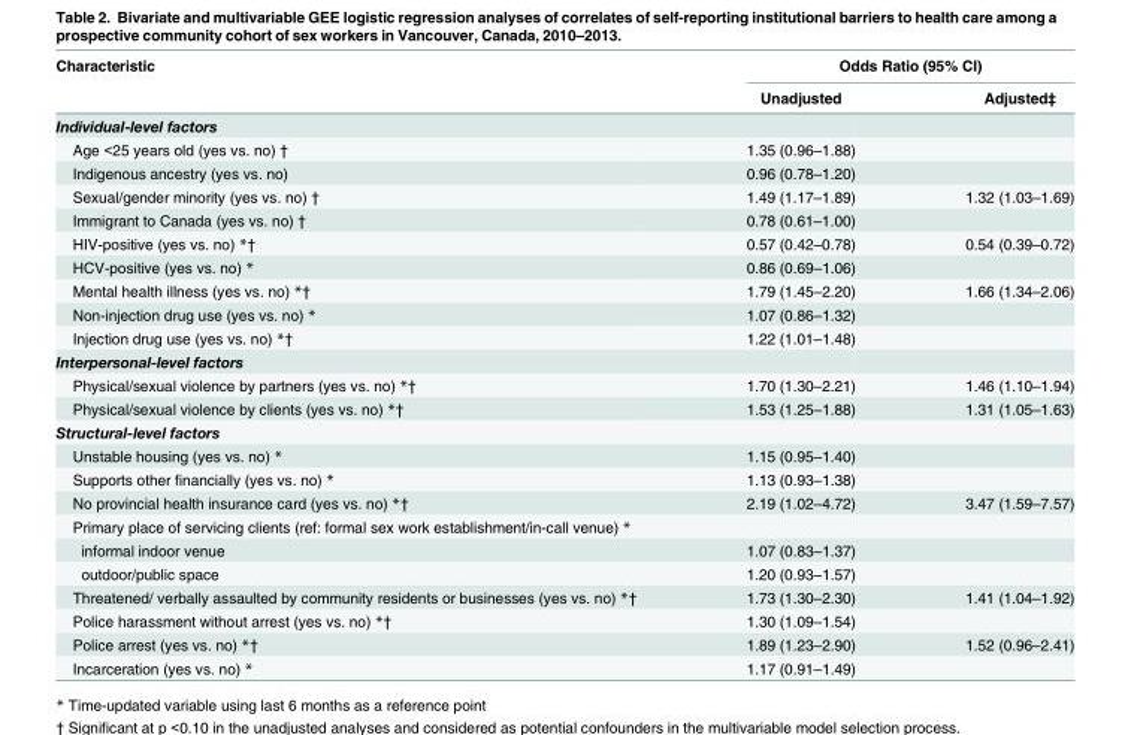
<table><thead><tr><td rowspan="2">Characteristic</td><td colspan="2">Odds Ratio (95% CI)</td></tr><tr><td>Unadjusted</td><td>Adjusted‡</td></tr></thead><tbody><tr><td colspan="3">Individual-level factors</td></tr><tr><td>Age &lt;25 years old (yes vs. no) †</td><td>1.35 (0.96–1.88)</td><td></td></tr><tr><td>Indigenous ancestry (yes vs. no)</td><td>0.96 (0.78–1.20)</td><td></td></tr><tr><td>Sexual/gender minority (yes vs. no) †</td><td>1.49 (1.17–1.89)</td><td>1.32 (1.03–1.69)</td></tr><tr><td>Immigrant to Canada (yes vs. no) †</td><td>0.78 (0.61–1.00)</td><td></td></tr><tr><td>HIV-positive (yes vs. no) *†</td><td>0.57 (0.42–0.78)</td><td>0.54 (0.39–0.72)</td></tr><tr><td>HCV-positive (yes vs. no) *</td><td>0.86 (0.69–1.06)</td><td></td></tr><tr><td>Mental health illness (yes vs. no) *†</td><td>1.79 (1.45–2.20)</td><td>1.66 (1.34–2.06)</td></tr><tr><td>Non-injection drug use (yes vs. no) *</td><td>1.07 (0.86–1.32)</td><td></td></tr><tr><td>Injection drug use (yes vs. no) *†</td><td>1.22 (1.01–1.48)</td><td></td></tr><tr><td colspan="3">Interpersonal-level factors</td></tr><tr><td>Physical/sexual violence by partners (yes vs. no) *†</td><td>1.70 (1.30–2.21)</td><td>1.46 (1.10–1.94)</td></tr><tr><td>Physical/sexual violence by clients (yes vs. no) *†</td><td>1.53 (1.25–1.88)</td><td>1.31 (1.05–1.63)</td></tr><tr><td colspan="3">Structural-level factors</td></tr><tr><td>Unstable housing (yes vs. no) *</td><td>1.15 (0.95–1.40)</td><td></td></tr><tr><td>Supports other financially (yes vs. no) *</td><td>1.13 (0.93–1.38)</td><td></td></tr><tr><td>No provincial health insurance card (yes vs. no) *†</td><td>2.19 (1.02–4.72)</td><td>3.47 (1.59–7.57)</td></tr><tr><td colspan="3">Primary place of servicing clients (ref: formal sex work establishment/in-call venue) *</td></tr><tr><td>informal indoor venue</td><td>1.07 (0.83–1.37)</td><td></td></tr><tr><td>outdoor/public space</td><td>1.20 (0.93–1.57)</td><td></td></tr><tr><td>Threatened/ verbally assaulted by community residents or businesses (yes vs. no) *†</td><td>1.73 (1.30–2.30)</td><td>1.41 (1.04–1.92)</td></tr><tr><td>Police harassment without arrest (yes vs. no) *†</td><td>1.30 (1.09–1.54)</td><td></td></tr><tr><td>Police arrest (yes vs. no) *†</td><td>1.89 (1.23–2.90)</td><td>1.52 (0.96–2.41)</td></tr><tr><td>Incarceration (yes vs. no) *</td><td>1.17 (0.91–1.49)</td><td></td></tr></tbody></table>